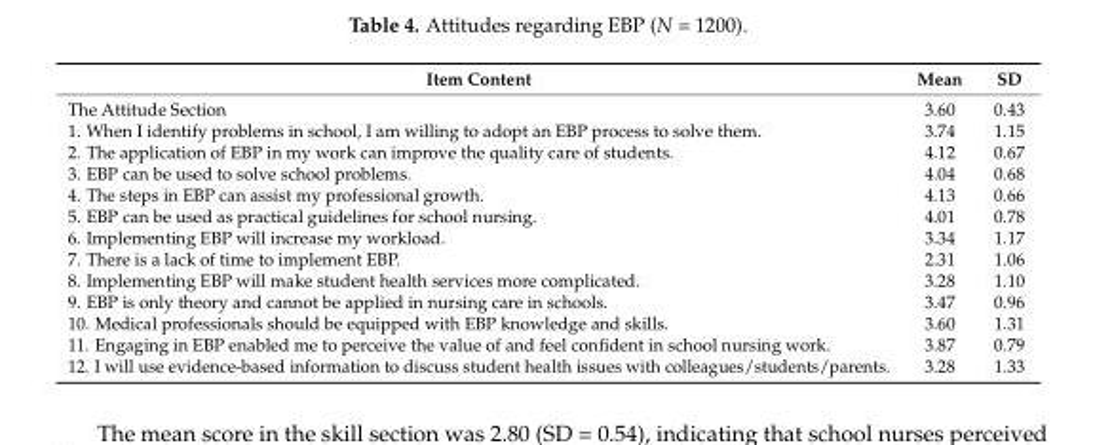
<table><thead><tr><td>Item Content</td><td>Mean</td><td>SD</td></tr></thead><tbody><tr><td>The Attitude Section</td><td>3.60</td><td>0.43</td></tr><tr><td>1. When I identify problems in school, I am willing to adopt an EBP process to solve them.</td><td>3.74</td><td>1.15</td></tr><tr><td>2. The application of EBP in my work can improve the quality care of students.</td><td>4.12</td><td>0.67</td></tr><tr><td>3. EBP can be used to solve school problems.</td><td>4.04</td><td>0.68</td></tr><tr><td>4. The steps in EBP can assist my professional growth.</td><td>4.13</td><td>0.66</td></tr><tr><td>5. EBP can be used as practical guidelines for school nursing.</td><td>4.01</td><td>0.78</td></tr><tr><td>6. Implementing EBP will increase my workload.</td><td>3.34</td><td>1.17</td></tr><tr><td>7. There is a lack of time to implement EBP.</td><td>2.31</td><td>1.06</td></tr><tr><td>8. Implementing EBP will make student health services more complicated.</td><td>3.28</td><td>1.10</td></tr><tr><td>9. EBP is only theory and cannot be applied in nursing care in schools.</td><td>3.47</td><td>0.96</td></tr><tr><td>10. Medical professionals should be equipped with EBP knowledge and skills.</td><td>3.60</td><td>1.31</td></tr><tr><td>11. Engaging in EBP enabled me to perceive the value of and feel confident in school nursing work.</td><td>3.87</td><td>0.79</td></tr><tr><td>12. I will use evidence-based information to discuss student health issues with colleagues/students/parents.</td><td>3.28</td><td>1.33</td></tr></tbody></table>